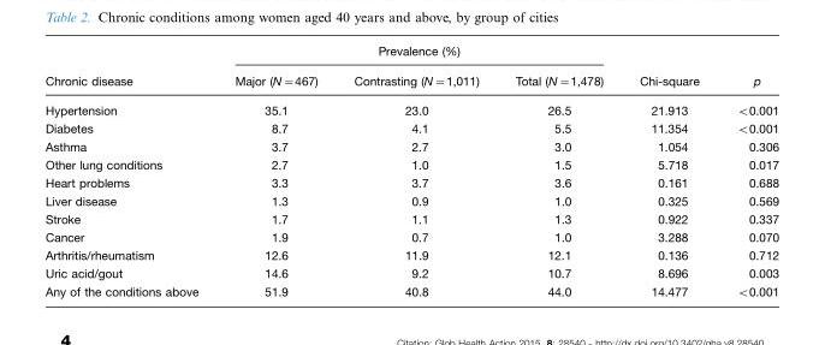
<table><thead><tr><td rowspan="2">Chronic disease</td><td colspan="3">Prevalence (%)</td><td rowspan="2">Chi-square</td><td rowspan="2">p</td></tr><tr><td>Major (N=467)</td><td>Contrasting (N=1,011)</td><td>Total (N=1,478)</td></tr></thead><tbody><tr><td>Hypertension</td><td>35.1</td><td>23.0</td><td>26.5</td><td>21.913</td><td>&lt;0.001</td></tr><tr><td>Diabetes</td><td>8.7</td><td>4.1</td><td>5.5</td><td>11.354</td><td>&lt;0.001</td></tr><tr><td>Asthma</td><td>3.7</td><td>2.7</td><td>3.0</td><td>1.054</td><td>0.306</td></tr><tr><td>Other lung conditions</td><td>2.7</td><td>1.0</td><td>1.5</td><td>5.718</td><td>0.017</td></tr><tr><td>Heart problems</td><td>3.3</td><td>3.7</td><td>3.6</td><td>0.161</td><td>0.688</td></tr><tr><td>Liver disease</td><td>1.3</td><td>0.9</td><td>1.0</td><td>0.325</td><td>0.569</td></tr><tr><td>Stroke</td><td>1.7</td><td>1.1</td><td>1.3</td><td>0.922</td><td>0.337</td></tr><tr><td>Cancer</td><td>1.9</td><td>0.7</td><td>1.0</td><td>3.288</td><td>0.070</td></tr><tr><td>Arthritis/rheumatism</td><td>12.6</td><td>11.9</td><td>12.1</td><td>0.136</td><td>0.712</td></tr><tr><td>Uric acid/gout</td><td>14.6</td><td>9.2</td><td>10.7</td><td>8.696</td><td>0.003</td></tr><tr><td>Any of the conditions above</td><td>51.9</td><td>40.8</td><td>44.0</td><td>14.477</td><td>&lt;0.001</td></tr></tbody></table>